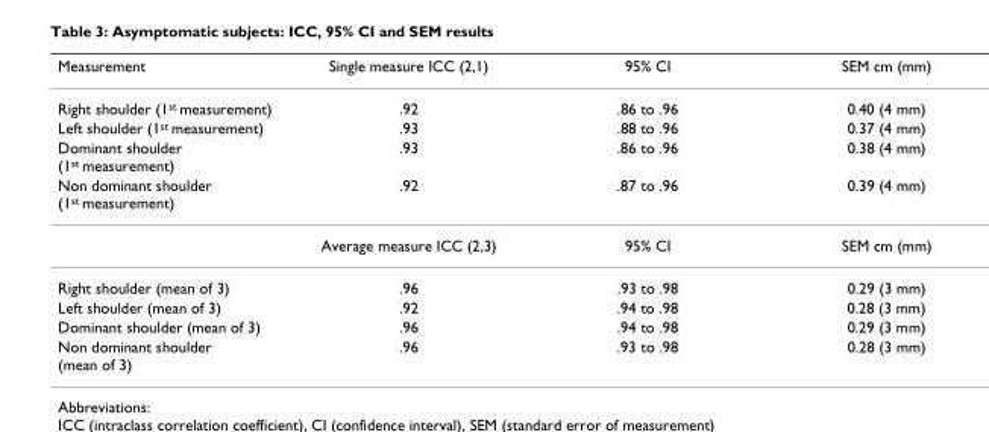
<table><thead><tr><td>Measurement</td><td>Single measure ICC (2,1)</td><td>95% CI</td><td>SEM cm (mm)</td></tr></thead><tbody><tr><td>Right shoulder (1<sup>st</sup> measurement)</td><td>.92</td><td>.86 to .96</td><td>0.40 (4 mm)</td></tr><tr><td>Left shoulder (1<sup>st</sup> measurement)</td><td>.93</td><td>.88 to .96</td><td>0.37 (4 mm)</td></tr><tr><td>Dominant shoulder (1<sup>st</sup> measurement)</td><td>.93</td><td>.86 to .96</td><td>0.38 (4 mm)</td></tr><tr><td rowspan="2">Non dominant shoulder (1<sup>st</sup> measurement)</td><td>.92</td><td>.87 to .96</td><td>0.39 (4 mm)</td></tr><tr><td>Average measure ICC (2,3)</td><td>95% CI</td><td>SEM cm (mm)</td></tr><tr><td>Right shoulder (mean of 3)</td><td>.96</td><td>.93 to .98</td><td>0.29 (3 mm)</td></tr><tr><td>Left shoulder (mean of 3)</td><td>.92</td><td>.94 to .98</td><td>0.28 (3 mm)</td></tr><tr><td>Dominant shoulder (mean of 3)</td><td>.96</td><td>.94 to .98</td><td>0.29 (3 mm)</td></tr><tr><td>Non dominant shoulder (mean of 3)</td><td>.96</td><td>.93 to .98</td><td>0.28 (3 mm)</td></tr></tbody></table>